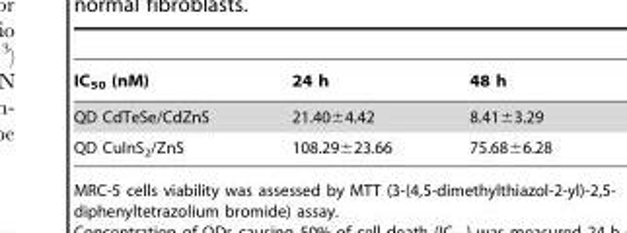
<table><thead><tr><td>IC<sub>50</sub> (nM)</td><td>24 h</td><td>48 h</td></tr></thead><tbody><tr><td>QD CdTeSe/CdZnS</td><td>21.40±4.42</td><td>8.41±3.29</td></tr><tr><td>QD CuInS<sub>2</sub>/ZnS</td><td>108.29±23.66</td><td>75.68±6.28</td></tr></tbody></table>